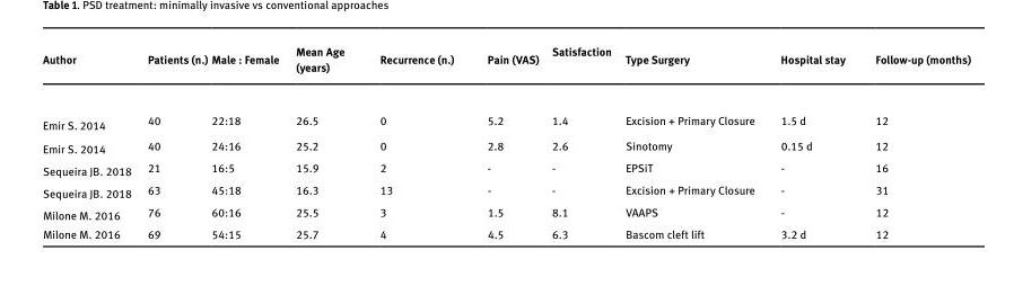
<table><thead><tr><td>Author</td><td>Patients (n.)</td><td>Male : Female</td><td>Mean Age (years)</td><td>Recurrence (n.)</td><td>Pain (VAS)</td><td>Satisfaction</td><td>Type Surgery</td><td>Hospital stay</td><td>Follow-up (months)</td></tr></thead><tbody><tr><td>Emir S. 2014</td><td>40</td><td>22:18</td><td>26.5</td><td>0</td><td>5.2</td><td>1.4</td><td>Excision + Primary Closure</td><td>1.5 d</td><td>12</td></tr><tr><td>Emir S. 2014</td><td>40</td><td>24:16</td><td>25.2</td><td>0</td><td>2.8</td><td>2.6</td><td>Sinotomy</td><td>0.15 d</td><td>12</td></tr><tr><td>Sequeira JB. 2018</td><td>21</td><td>16:5</td><td>15.9</td><td>2</td><td>-</td><td>-</td><td>EPSiT</td><td>-</td><td>16</td></tr><tr><td>Sequeira JB. 2018</td><td>63</td><td>45:18</td><td>16.3</td><td>13</td><td>-</td><td>-</td><td>Excision + Primary Closure</td><td>-</td><td>31</td></tr><tr><td>Milone M. 2016</td><td>76</td><td>60:16</td><td>25.5</td><td>3</td><td>1.5</td><td>8.1</td><td>VAAPS</td><td>-</td><td>12</td></tr><tr><td>Milone M. 2016</td><td>69</td><td>54:15</td><td>25.7</td><td>4</td><td>4.5</td><td>6.3</td><td>Bascom cleft lift</td><td>3.2 d</td><td>12</td></tr></tbody></table>